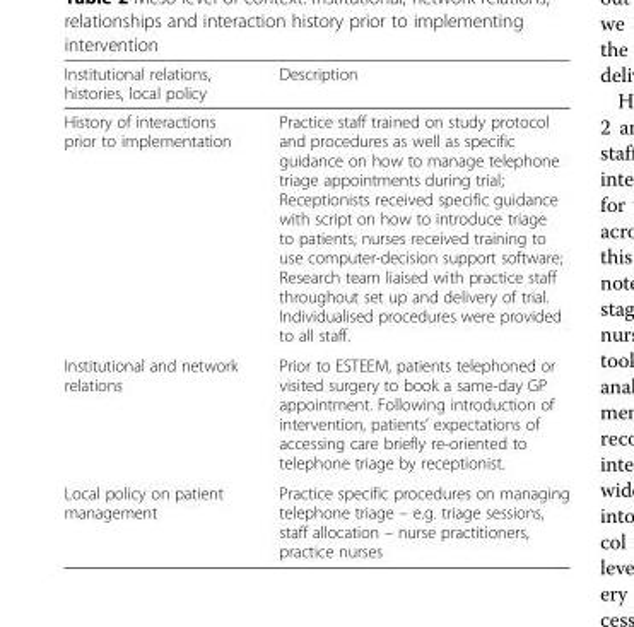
<table><thead><tr><td>Institutional relations, histories, local policy</td><td>Description</td></tr></thead><tbody><tr><td>History of interactions prior to implementation</td><td>Practice staff trained on study protocol and procedures as well as specific guidance on how to manage telephone triage appointments during trial; Receptionists received specific guidance with script on how to introduce triage to patients; nurses received training to use computer-decision support software; Research team liaised with practice staff throughout set up and delivery of trial. Individualised procedures were provided to all staff.</td></tr><tr><td>Institutional and network relations</td><td>Prior to ESTEEM, patients telephoned or visited surgery to book a same-day GP appointment. Following introduction of intervention, patients’ expectations of accessing care briefly re-oriented to telephone triage by receptionist.</td></tr><tr><td>Local policy on patient management</td><td>Practice specific procedures on managing telephone triage – e.g. triage sessions, staff allocation – nurse practitioners, practice nurses</td></tr></tbody></table>